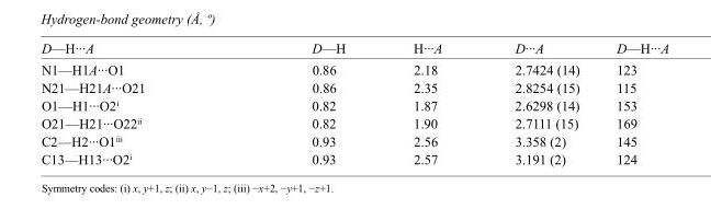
<table><tbody><tr><td>D—H···A</td><td>D—H</td><td>H···A</td><td>D···A</td><td>D—H···A</td></tr><tr><td>N1—H1A···O1</td><td>0.86</td><td>2.18</td><td>2.7424 (14)</td><td>123</td></tr><tr><td>N21—H21A···O21</td><td>0.86</td><td>2.35</td><td>2.8254 (15)</td><td>115</td></tr><tr><td>O1—H1···O2<sup>i</sup></td><td>0.82</td><td>1.87</td><td>2.6298 (14)</td><td>153</td></tr><tr><td>O21—H21···O22<sup>ii</sup></td><td>0.82</td><td>1.90</td><td>2.7111 (15)</td><td>169</td></tr><tr><td>C2—H2···O1<sup>iii</sup></td><td>0.93</td><td>2.56</td><td>3.358 (2)</td><td>145</td></tr><tr><td>C13—H13···O2<sup>i</sup></td><td>0.93</td><td>2.57</td><td>3.191 (2)</td><td>124</td></tr></tbody></table>